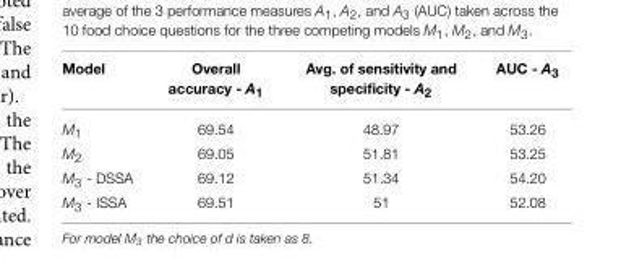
<table><thead><tr><td>Model</td><td>Overall accuracy - A<sub>1</sub></td><td>Avg. of sensitivity and specificity - A<sub>2</sub></td><td>AUC - A<sub>3</sub></td></tr></thead><tbody><tr><td>M<sub>1</sub></td><td>69.54</td><td>48.97</td><td>53.26</td></tr><tr><td>M<sub>2</sub></td><td>69.05</td><td>51.81</td><td>53.25</td></tr><tr><td>M<sub>3</sub> - DSSA</td><td>69.12</td><td>51.34</td><td>54.20</td></tr><tr><td>M<sub>3</sub> - ISSA</td><td>69.51</td><td>51</td><td>52.08</td></tr></tbody></table>